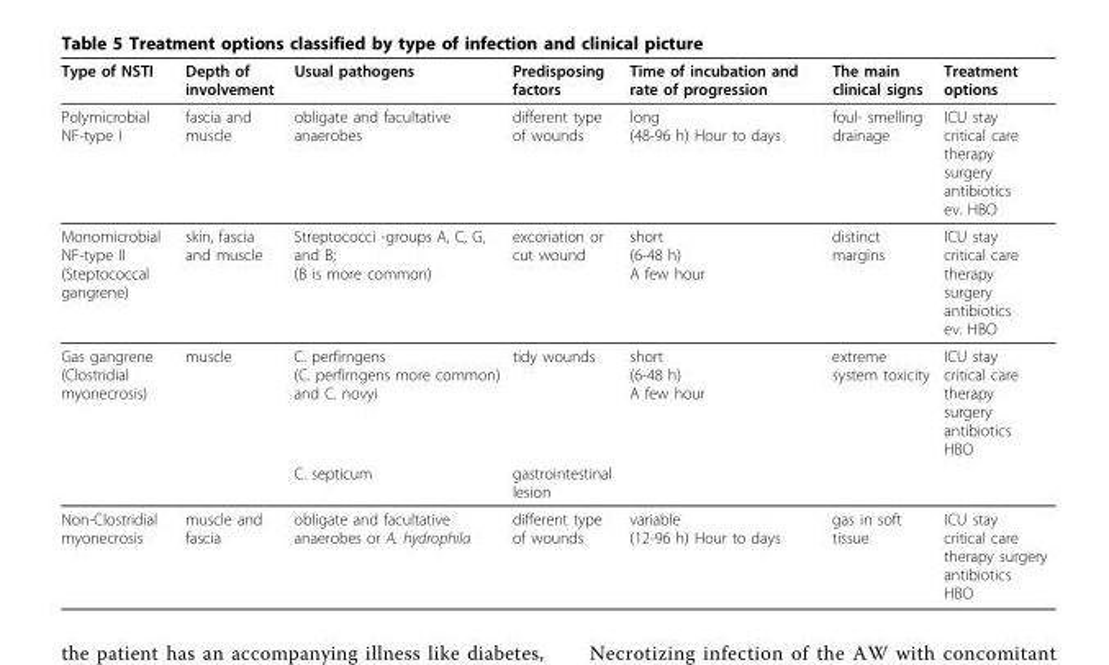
<table><thead><tr><td>Type of NSTI</td><td>Depth of involvement</td><td>Usual pathogens</td><td>Predisposing factors</td><td>Time of incubation and rate of progression</td><td>The main clinical signs</td><td>Treatment options</td></tr></thead><tbody><tr><td>Polymicrobial NF-type I</td><td>fascia and muscle</td><td>obligate and facultative anaerobes</td><td>different type of wounds</td><td>long (48-96 h) Hour to days</td><td>foul- smelling drainage</td><td>ICU stay critical care therapy surgery antibiotics ev. HBO</td></tr><tr><td>Monomicrobial NF-type II (Steptococcal gangrene)</td><td>skin, fascia and muscle</td><td>Streptococci -groups A, C, G, and B; (B is more common)</td><td>excoriation or cut wound</td><td>short (6-48 h) A few hour</td><td>distinct margins</td><td>ICU stay critical care therapy surgery antibiotics ev. HBO</td></tr><tr><td rowspan="2">Gas gangrene (Clostridial myonecrosis)</td><td>muscle</td><td>C. perfirngens (C. perfirngens more common) and C. novyi</td><td>tidy wounds</td><td>short (6-48 h) A few hour</td><td>extreme system toxicity</td><td>ICU stay critical care therapy surgery antibiotics HBO</td></tr><tr><td></td><td>C. septicum</td><td>gastrointestinal lesion</td><td></td><td></td><td></td></tr><tr><td>Non-Clostridial myonecrosis</td><td>muscle and fascia</td><td>obligate and facultative anaerobes or A. hydrophila</td><td>different type of wounds</td><td>variable (12-96 h) Hour to days</td><td>gas in soft tissue</td><td>ICU stay critical care therapy surgery antibiotics HBO</td></tr></tbody></table>